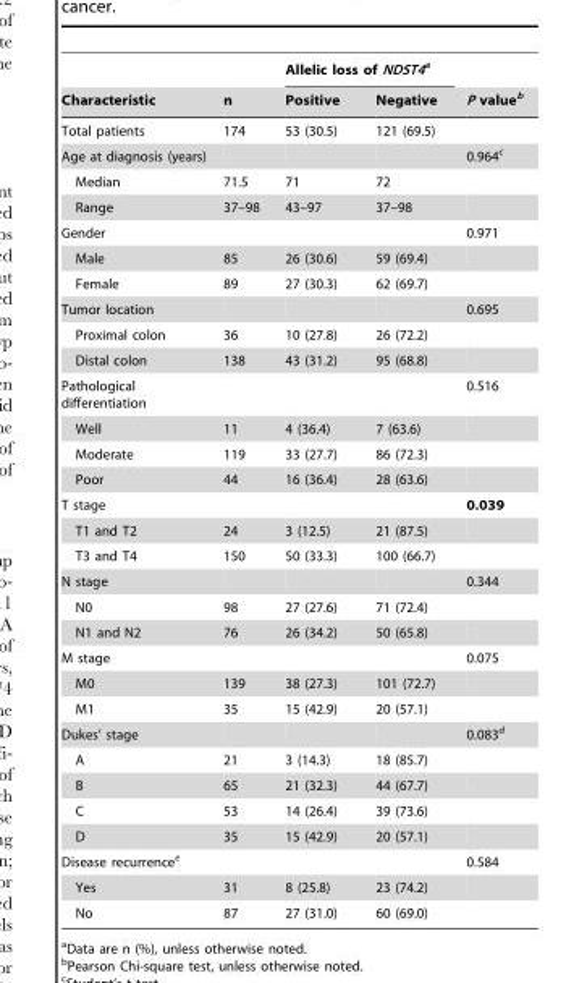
<table><thead><tr><td rowspan="2">Characteristic</td><td rowspan="2">n</td><td colspan="2">Allelic loss of NDST4a</td><td rowspan="2">P value<sup>b</sup></td></tr><tr><td>Positive</td><td>Negative</td></tr></thead><tbody><tr><td>Total patients</td><td>174</td><td>53 (30.5)</td><td>121 (69.5)</td><td></td></tr><tr><td>Age at diagnosis (years)</td><td></td><td></td><td></td><td>0.964<sup>c</sup></td></tr><tr><td>Median</td><td>71.5</td><td>71</td><td>72</td><td></td></tr><tr><td>Range</td><td>37–98</td><td>43–97</td><td>37–98</td><td></td></tr><tr><td>Gender</td><td></td><td></td><td></td><td>0.971</td></tr><tr><td>Male</td><td>85</td><td>26 (30.6)</td><td>59 (69.4)</td><td></td></tr><tr><td>Female</td><td>89</td><td>27 (30.3)</td><td>62 (69.7)</td><td></td></tr><tr><td>Tumor location</td><td></td><td></td><td></td><td>0.695</td></tr><tr><td>Proximal colon</td><td>36</td><td>10 (27.8)</td><td>26 (72.2)</td><td></td></tr><tr><td>Distal colon</td><td>138</td><td>43 (31.2)</td><td>95 (68.8)</td><td></td></tr><tr><td>Pathological differentiation</td><td></td><td></td><td></td><td>0.516</td></tr><tr><td>Well</td><td>11</td><td>4 (36.4)</td><td>7 (63.6)</td><td></td></tr><tr><td>Moderate</td><td>119</td><td>33 (27.7)</td><td>86 (72.3)</td><td></td></tr><tr><td>Poor</td><td>44</td><td>16 (36.4)</td><td>28 (63.6)</td><td></td></tr><tr><td>T stage</td><td></td><td></td><td></td><td>0.039</td></tr><tr><td>T1 and T2</td><td>24</td><td>3 (12.5)</td><td>21 (87.5)</td><td></td></tr><tr><td>T3 and T4</td><td>150</td><td>50 (33.3)</td><td>100 (66.7)</td><td></td></tr><tr><td>N stage</td><td></td><td></td><td></td><td>0.344</td></tr><tr><td>N0</td><td>98</td><td>27 (27.6)</td><td>71 (72.4)</td><td></td></tr><tr><td>N1 and N2</td><td>76</td><td>26 (34.2)</td><td>50 (65.8)</td><td></td></tr><tr><td>M stage</td><td></td><td></td><td></td><td>0.075</td></tr><tr><td>M0</td><td>139</td><td>38 (27.3)</td><td>101 (72.7)</td><td></td></tr><tr><td>M1</td><td>35</td><td>15 (42.9)</td><td>20 (57.1)</td><td></td></tr><tr><td>Dukes’ stage</td><td></td><td></td><td></td><td>0.083<sup>d</sup></td></tr><tr><td>A</td><td>21</td><td>3 (14.3)</td><td>18 (85.7)</td><td></td></tr><tr><td>B</td><td>65</td><td>21 (32.3)</td><td>44 (67.7)</td><td></td></tr><tr><td>C</td><td>53</td><td>14 (26.4)</td><td>39 (73.6)</td><td></td></tr><tr><td>D</td><td>35</td><td>15 (42.9)</td><td>20 (57.1)</td><td></td></tr><tr><td>Disease recurrence<sup>e</sup></td><td></td><td></td><td></td><td>0.584</td></tr><tr><td>Yes</td><td>31</td><td>8 (25.8)</td><td>23 (74.2)</td><td></td></tr><tr><td>No</td><td>87</td><td>27 (31.0)</td><td>60 (69.0)</td><td></td></tr></tbody></table>